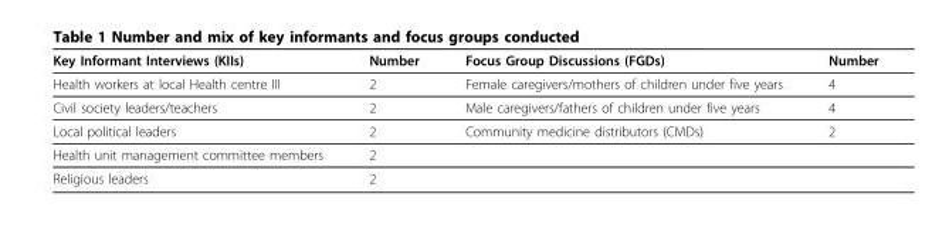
<table><thead><tr><td>Key Informant Interviews (KIIs)</td><td>Number</td><td>Focus Group Discussions (FGDs)</td><td>Number</td></tr></thead><tbody><tr><td>Health workers at local Health centre III</td><td>2</td><td>Female caregivers/mothers of children under five years</td><td>4</td></tr><tr><td>Civil society leaders/teachers</td><td>2</td><td>Male caregivers/fathers of children under five years</td><td>4</td></tr><tr><td>Local political leaders</td><td>2</td><td>Community medicine distributors (CMDs)</td><td>2</td></tr><tr><td>Health unit management committee members</td><td>2</td><td></td><td></td></tr><tr><td>Religious leaders</td><td>2</td><td></td><td></td></tr></tbody></table>